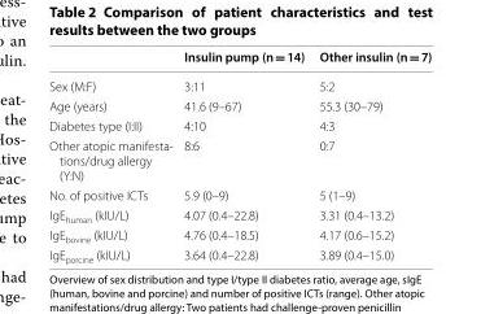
<table><thead><tr><td></td><td>Insulin pump (n = 14)</td><td>Other insulin (n = 7)</td></tr></thead><tbody><tr><td>Sex (M:F)</td><td>3:11</td><td>5:2</td></tr><tr><td>Age (years)</td><td>41.6 (9–67)</td><td>55.3 (30–79)</td></tr><tr><td>Diabetes type (I:II)</td><td>4:10</td><td>4:3</td></tr><tr><td>Other atopic manifesta‑ tions/drug allergy (Y:N)</td><td>8:6</td><td>0:7</td></tr><tr><td>No. of positive ICTs</td><td>5.9 (0–9)</td><td>5 (1–9)</td></tr><tr><td>IgE<sub>human</sub> (kIU/L)</td><td>4.07 (0.4–22.8)</td><td>3.31 (0.4–13.2)</td></tr><tr><td>IgE<sub>bovine</sub> (kIU/L)</td><td>4.76 (0.4–18.5)</td><td>4.17 (0.6–15.2)</td></tr><tr><td>IgE<sub>porcine</sub> (kIU/L)</td><td>3.64 (0.4–22.8)</td><td>3.89 (0.4–15.0)</td></tr></tbody></table>